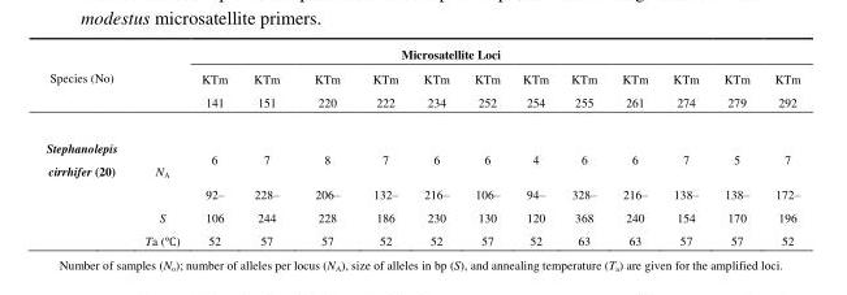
<table><thead><tr><td rowspan="2">Species (No)</td><td colspan="13">Microsatellite Loci</td></tr><tr><td></td><td>KTm 141</td><td>KTm 151</td><td>KTm 220</td><td>KTm 222</td><td>KTm 234</td><td>KTm 252</td><td>KTm 254</td><td>KTm 255</td><td>KTm 261</td><td>KTm 274</td><td>KTm 279</td><td>KTm 292</td></tr></thead><tbody><tr><td rowspan="3">Stephanolepis cirrhifer (20)</td><td>N<sub>A</sub></td><td>6</td><td>7</td><td>8</td><td>7</td><td>6</td><td>6</td><td>4</td><td>6</td><td>6</td><td>7</td><td>5</td><td>7</td></tr><tr><td>S</td><td>92– 106</td><td>228– 244</td><td>206– 228</td><td>132– 186</td><td>216– 230</td><td>106– 130</td><td>94– 120</td><td>328– 368</td><td>216– 240</td><td>138– 154</td><td>138– 170</td><td>172– 196</td></tr><tr><td>Ta (℃)</td><td>52</td><td>57</td><td>57</td><td>52</td><td>52</td><td>57</td><td>52</td><td>63</td><td>63</td><td>57</td><td>57</td><td>52</td></tr></tbody></table>